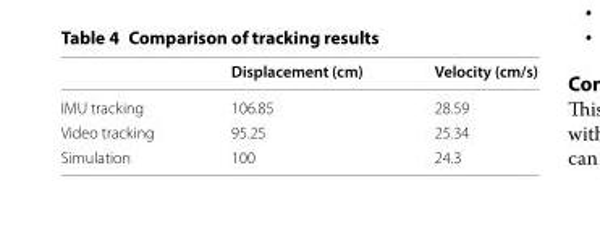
<table><thead><tr><td></td><td>Displacement (cm)</td><td>Velocity (cm/s)</td></tr></thead><tbody><tr><td>IMU tracking</td><td>106.85</td><td>28.59</td></tr><tr><td>Video tracking</td><td>95.25</td><td>25.34</td></tr><tr><td>Simulation</td><td>100</td><td>24.3</td></tr></tbody></table>